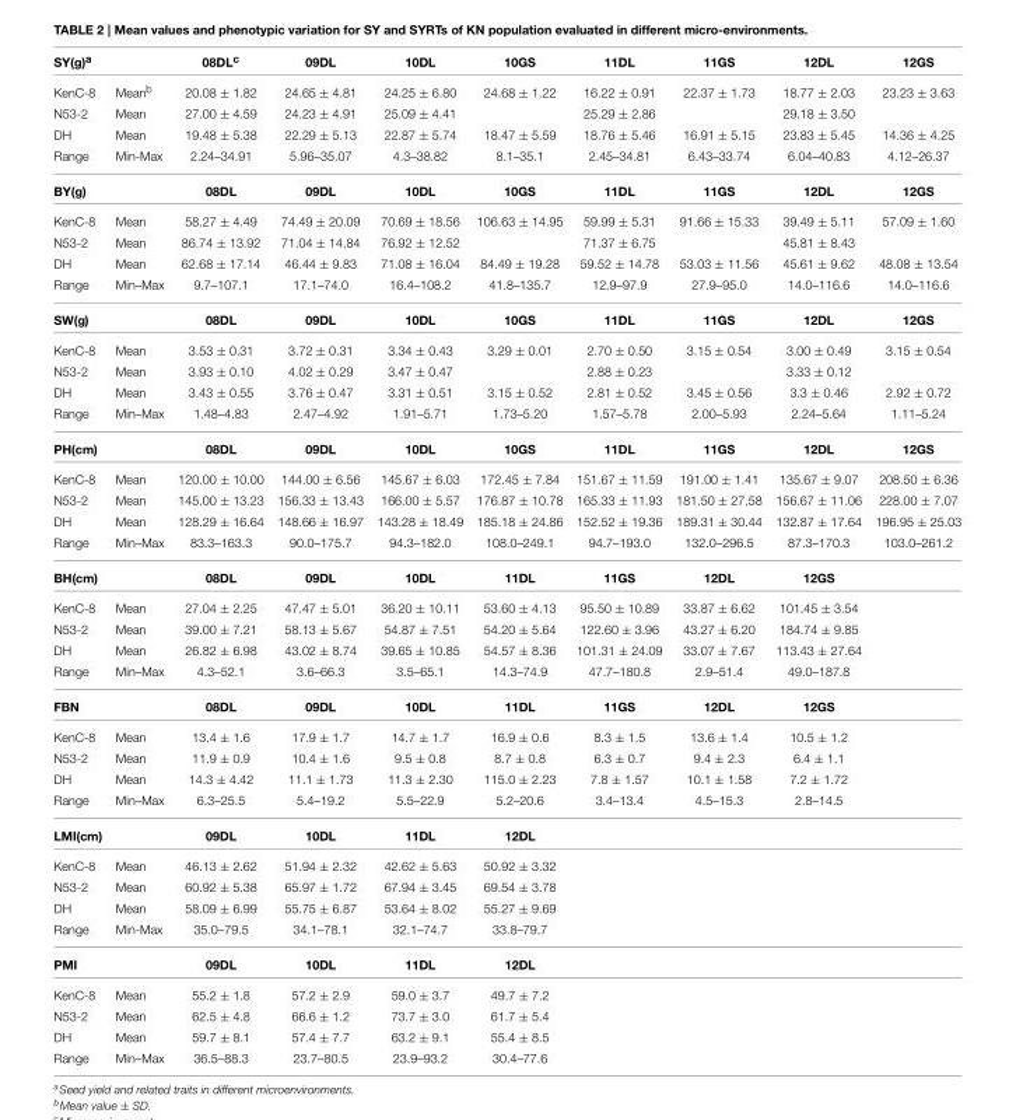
<table><thead><tr><td>SY(g)<sup>a</sup></td><td></td><td>08DL<sup>c</sup></td><td>09DL</td><td>10DL</td><td>10GS</td><td>11DL</td><td>11GS</td><td>12DL</td><td>12GS</td></tr></thead><tbody><tr><td>KenC-8</td><td>Mean<sup>b</sup></td><td>20.08 ± 1.82</td><td>24.65 ± 4.81</td><td>24.25 ± 6.80</td><td>24.68 ± 1.22</td><td>16.22 ± 0.91</td><td>22.37 ± 1.73</td><td>18.77 ± 2.03</td><td>23.23 ± 3.63</td></tr><tr><td>N53-2</td><td>Mean</td><td>27.00 ± 4.59</td><td>24.23 ± 4.91</td><td>25.09 ± 4.41</td><td></td><td>25.29 ± 2.86</td><td></td><td>29.18 ± 3.50</td><td></td></tr><tr><td>DH</td><td>Mean</td><td>19.48 ± 5.38</td><td>22.29 ± 5.13</td><td>22.87 ± 5.74</td><td>18.47 ± 5.59</td><td>18.76 ± 5.46</td><td>16.91 ± 5.15</td><td>23.83 ± 5.45</td><td>14.36 ± 4.25</td></tr><tr><td>Range</td><td>Min-Max</td><td>2.24–34.91</td><td>5.96–35.07</td><td>4.3–38.82</td><td>8.1–35.1</td><td>2.45–34.81</td><td>6.43–33.74</td><td>6.04–40.83</td><td>4.12–26.37</td></tr><tr><td>BY(g)</td><td></td><td>08DL</td><td>09DL</td><td>10DL</td><td>10GS</td><td>11DL</td><td>11GS</td><td>12DL</td><td>12GS</td></tr><tr><td>KenC-8</td><td>Mean</td><td>58.27 ± 4.49</td><td>74.49 ± 20.09</td><td>70.69 ± 18.56</td><td>106.63 ± 14.95</td><td>59.99 ± 5.31</td><td>91.66 ± 15.33</td><td>39.49 ± 5.11</td><td>57.09 ± 1.60</td></tr><tr><td>N53-2</td><td>Mean</td><td>86.74 ± 13.92</td><td>71.04 ± 14.84</td><td>76.92 ± 12.52</td><td></td><td>71.37 ± 6.75</td><td></td><td>45.81 ± 8.43</td><td></td></tr><tr><td>DH</td><td>Mean</td><td>62.68 ± 17.14</td><td>46.44 ± 9.83</td><td>71.08 ± 16.04</td><td>84.49 ± 19.28</td><td>59.52 ± 14.78</td><td>53.03 ± 11.56</td><td>45.61 ± 9.62</td><td>48.08 ± 13.54</td></tr><tr><td>Range</td><td>Min–Max</td><td>9.7–107.1</td><td>17.1–74.0</td><td>16.4–108.2</td><td>41.8–135.7</td><td>12.9–97.9</td><td>27.9–95.0</td><td>14.0–116.6</td><td>14.0–116.6</td></tr><tr><td>SW(g)</td><td></td><td>08DL</td><td>09DL</td><td>10DL</td><td>10GS</td><td>11DL</td><td>11GS</td><td>12DL</td><td>12GS</td></tr><tr><td>KenC-8</td><td>Mean</td><td>3.53 ± 0.31</td><td>3.72 ± 0.31</td><td>3.34 ± 0.43</td><td>3.29 ± 0.01</td><td>2.70 ± 0.50</td><td>3.15 ± 0.54</td><td>3.00 ± 0.49</td><td>3.15 ± 0.54</td></tr><tr><td>N53-2</td><td>Mean</td><td>3.93 ± 0.10</td><td>4.02 ± 0.29</td><td>3.47 ± 0.47</td><td></td><td>2.88 ± 0.23</td><td></td><td>3.33 ± 0.12</td><td></td></tr><tr><td>DH</td><td>Mean</td><td>3.43 ± 0.55</td><td>3.76 ± 0.47</td><td>3.31 ± 0.51</td><td>3.15 ± 0.52</td><td>2.81 ± 0.52</td><td>3.45 ± 0.56</td><td>3.3 ± 0.46</td><td>2.92 ± 0.72</td></tr><tr><td>Range</td><td>Min–Max</td><td>1.48–4.83</td><td>2.47–4.92</td><td>1.91–5.71</td><td>1.73–5.20</td><td>1.57–5.78</td><td>2.00–5.93</td><td>2.24–5.64</td><td>1.11–5.24</td></tr><tr><td>PH(cm)</td><td></td><td>08DL</td><td>09DL</td><td>10DL</td><td>10GS</td><td>11DL</td><td>11GS</td><td>12DL</td><td>12GS</td></tr><tr><td>KenC-8</td><td>Mean</td><td>120.00 ± 10.00</td><td>144.00 ± 6.56</td><td>145.67 ± 6.03</td><td>172.45 ± 7.84</td><td>151.67 ± 11.59</td><td>191.00 ± 1.41</td><td>135.67 ± 9.07</td><td>208.50 ± 6.36</td></tr><tr><td>N53-2</td><td>Mean</td><td>145.00 ± 13.23</td><td>156.33 ± 13.43</td><td>166.00 ± 5.57</td><td>176.87 ± 10.78</td><td>165.33 ± 11.93</td><td>181.50 ± 27.58</td><td>156.67 ± 11.06</td><td>228.00 ± 7.07</td></tr><tr><td>DH</td><td>Mean</td><td>128.29 ± 16.64</td><td>148.66 ± 16.97</td><td>143.28 ± 18.49</td><td>185.18 ± 24.86</td><td>152.52 ± 19.36</td><td>189.31 ± 30.44</td><td>132.87 ± 17.64</td><td>196.95 ± 25.03</td></tr><tr><td>Range</td><td>Min–Max</td><td>83.3–163.3</td><td>90.0–175.7</td><td>94.3–182.0</td><td>108.0–249.1</td><td>94.7–193.0</td><td>132.0–296.5</td><td>87.3–170.3</td><td>103.0–261.2</td></tr><tr><td>BH(cm)</td><td></td><td>08DL</td><td>09DL</td><td>10DL</td><td>11DL</td><td>11GS</td><td>12DL</td><td>12GS</td><td></td></tr><tr><td>KenC-8</td><td>Mean</td><td>27.04 ± 2.25</td><td>47.47 ± 5.01</td><td>36.20 ± 10.11</td><td>53.60 ± 4.13</td><td>95.50 ± 10.89</td><td>33.87 ± 6.62</td><td>101.45 ± 3.54</td><td></td></tr><tr><td>N53-2</td><td>Mean</td><td>39.00 ± 7.21</td><td>58.13 ± 5.67</td><td>54.87 ± 7.51</td><td>54.20 ± 5.64</td><td>122.60 ± 3.96</td><td>43.27 ± 6.20</td><td>184.74 ± 9.85</td><td></td></tr><tr><td>DH</td><td>Mean</td><td>26.82 ± 6.98</td><td>43.02 ± 8.74</td><td>39.65 ± 10.85</td><td>54.57 ± 8.36</td><td>101.31 ± 24.09</td><td>33.07 ± 7.67</td><td>113.43 ± 27.64</td><td></td></tr><tr><td>Range</td><td>Min–Max</td><td>4.3–52.1</td><td>3.6–66.3</td><td>3.5–65.1</td><td>14.3–74.9</td><td>47.7–180.8</td><td>2.9–51.4</td><td>49.0–187.8</td><td></td></tr><tr><td>FBN</td><td></td><td>08DL</td><td>09DL</td><td>10DL</td><td>11DL</td><td>11GS</td><td>12DL</td><td>12GS</td><td></td></tr><tr><td>KenC-8</td><td>Mean</td><td>13.4 ± 1.6</td><td>17.9 ± 1.7</td><td>14.7 ± 1.7</td><td>16.9 ± 0.6</td><td>8.3 ± 1.5</td><td>13.6 ± 1.4</td><td>10.5 ± 1.2</td><td></td></tr><tr><td>N53-2</td><td>Mean</td><td>11.9 ± 0.9</td><td>10.4 ± 1.6</td><td>9.5 ± 0.8</td><td>8.7 ± 0.8</td><td>6.3 ± 0.7</td><td>9.4 ± 2.3</td><td>6.4 ± 1.1</td><td></td></tr><tr><td>DH</td><td>Mean</td><td>14.3 ± 4.42</td><td>11.1 ± 1.73</td><td>11.3 ± 2.30</td><td>115.0 ± 2.23</td><td>7.8 ± 1.57</td><td>10.1 ± 1.58</td><td>7.2 ± 1.72</td><td></td></tr><tr><td>Range</td><td>Min–Max</td><td>6.3–25.5</td><td>5.4–19.2</td><td>5.5–22.9</td><td>5.2–20.6</td><td>3.4–13.4</td><td>4.5–15.3</td><td>2.8–14.5</td><td></td></tr><tr><td>LMI(cm)</td><td></td><td>09DL</td><td>10DL</td><td>11DL</td><td>12DL</td><td></td><td></td><td></td><td></td></tr><tr><td>KenC-8</td><td>Mean</td><td>46.13 ± 2.62</td><td>51.94 ± 2.32</td><td>42.62 ± 5.63</td><td>50.92 ± 3.32</td><td></td><td></td><td></td><td></td></tr><tr><td>N53-2</td><td>Mean</td><td>60.92 ± 5.38</td><td>65.97 ± 1.72</td><td>67.94 ± 3.45</td><td>69.54 ± 3.78</td><td></td><td></td><td></td><td></td></tr><tr><td>DH</td><td>Mean</td><td>58.09 ± 6.99</td><td>55.75 ± 6.87</td><td>53.64 ± 8.02</td><td>55.27 ± 9.69</td><td></td><td></td><td></td><td></td></tr><tr><td>Range</td><td>Min-Max</td><td>35.0–79.5</td><td>34.1–78.1</td><td>32.1–74.7</td><td>33.8–79.7</td><td></td><td></td><td></td><td></td></tr><tr><td>PMI</td><td></td><td>09DL</td><td>10DL</td><td>11DL</td><td>12DL</td><td></td><td></td><td></td><td></td></tr><tr><td>KenC-8</td><td>Mean</td><td>55.2 ± 1.8</td><td>57.2 ± 2.9</td><td>59.0 ± 3.7</td><td>49.7 ± 7.2</td><td></td><td></td><td></td><td></td></tr><tr><td>N53-2</td><td>Mean</td><td>62.5 ± 4.8</td><td>66.6 ± 1.2</td><td>73.7 ± 3.0</td><td>61.7 ± 5.4</td><td></td><td></td><td></td><td></td></tr><tr><td>DH</td><td>Mean</td><td>59.7 ± 8.1</td><td>57.4 ± 7.7</td><td>63.2 ± 9.1</td><td>55.4 ± 8.5</td><td></td><td></td><td></td><td></td></tr><tr><td>Range</td><td>Min–Max</td><td>36.5–88.3</td><td>23.7–80.5</td><td>23.9–93.2</td><td>30.4–77.6</td><td></td><td></td><td></td><td></td></tr></tbody></table>